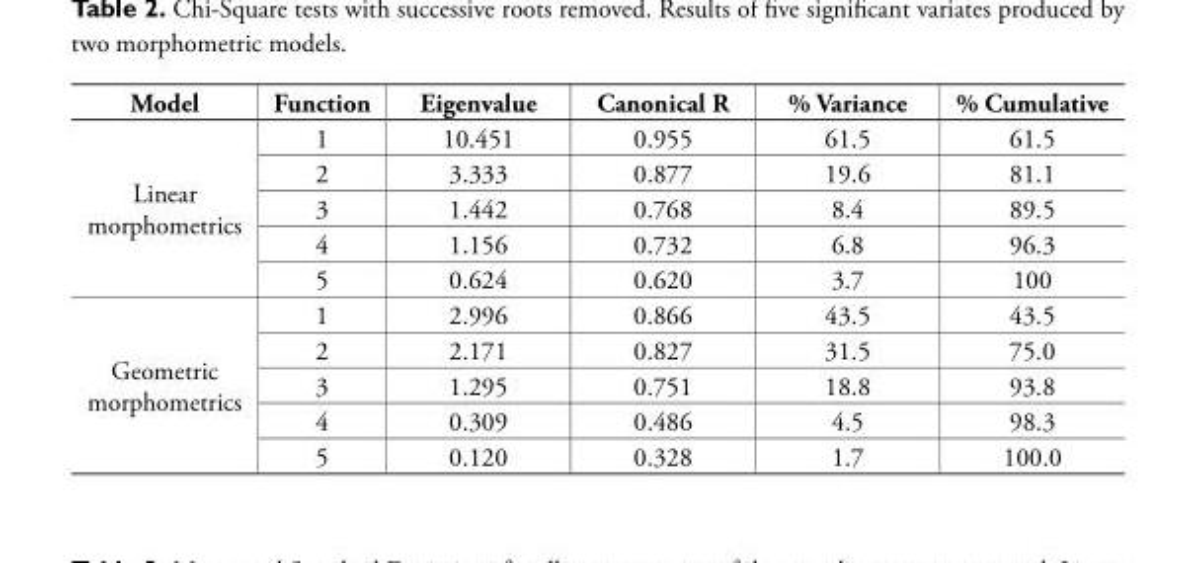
<table><thead><tr><td>Model</td><td>Function</td><td>Eigenvalue</td><td>Canonical R</td><td>% Variance</td><td>% Cumulative</td></tr></thead><tbody><tr><td rowspan="5">Linear morphometrics</td><td>1</td><td>10.451</td><td>0.955</td><td>61.5</td><td>61.5</td></tr><tr><td>2</td><td>3.333</td><td>0.877</td><td>19.6</td><td>81.1</td></tr><tr><td>3</td><td>1.442</td><td>0.768</td><td>8.4</td><td>89.5</td></tr><tr><td>4</td><td>1.156</td><td>0.732</td><td>6.8</td><td>96.3</td></tr><tr><td>5</td><td>0.624</td><td>0.620</td><td>3.7</td><td>100</td></tr><tr><td rowspan="5">Geometric morphometrics</td><td>1</td><td>2.996</td><td>0.866</td><td>43.5</td><td>43.5</td></tr><tr><td>2</td><td>2.171</td><td>0.827</td><td>31.5</td><td>75.0</td></tr><tr><td>3</td><td>1.295</td><td>0.751</td><td>18.8</td><td>93.8</td></tr><tr><td>4</td><td>0.309</td><td>0.486</td><td>4.5</td><td>98.3</td></tr><tr><td>5</td><td>0.120</td><td>0.328</td><td>1.7</td><td>100.0</td></tr></tbody></table>